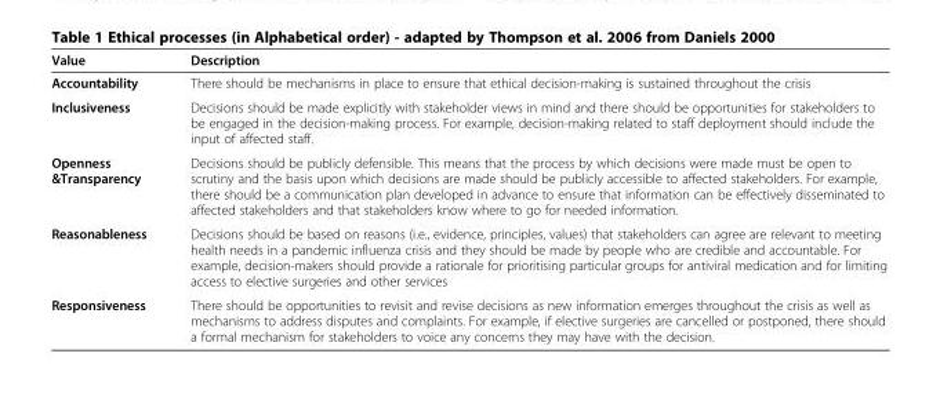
<table><thead><tr><td>Value</td><td>Description</td></tr></thead><tbody><tr><td>Accountability</td><td>There should be mechanisms in place to ensure that ethical decision-making is sustained throughout the crisis</td></tr><tr><td>Inclusiveness</td><td>Decisions should be made explicitly with stakeholder views in mind and there should be opportunities for stakeholders to be engaged in the decision-making process. For example, decision-making related to staff deployment should include the input of affected staff.</td></tr><tr><td>Openness &amp;Transparency</td><td>Decisions should be publicly defensible. This means that the process by which decisions were made must be open to scrutiny and the basis upon which decisions are made should be publicly accessible to affected stakeholders. For example, there should be a communication plan developed in advance to ensure that information can be effectively disseminated to affected stakeholders and that stakeholders know where to go for needed information.</td></tr><tr><td>Reasonableness</td><td>Decisions should be based on reasons (i.e., evidence, principles, values) that stakeholders can agree are relevant to meeting health needs in a pandemic influenza crisis and they should be made by people who are credible and accountable. For example, decision-makers should provide a rationale for prioritising particular groups for antiviral medication and for limiting access to elective surgeries and other services</td></tr><tr><td>Responsiveness</td><td>There should be opportunities to revisit and revise decisions as new information emerges throughout the crisis as well as mechanisms to address disputes and complaints. For example, if elective surgeries are cancelled or postponed, there should a formal mechanism for stakeholders to voice any concerns they may have with the decision.</td></tr></tbody></table>